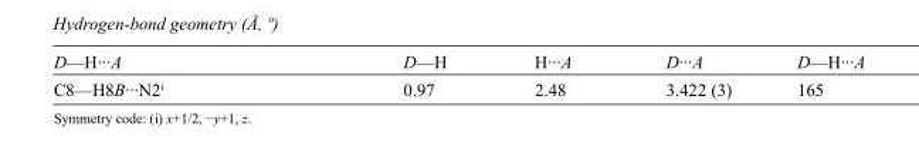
<table><tbody><tr><td>D—H···A</td><td>D—H</td><td>H···A</td><td>D···A</td><td>D—H···A</td></tr><tr><td>C8—H8B···N2<sup>i</sup></td><td>0.97</td><td>2.48</td><td>3.422 (3)</td><td>165</td></tr></tbody></table>